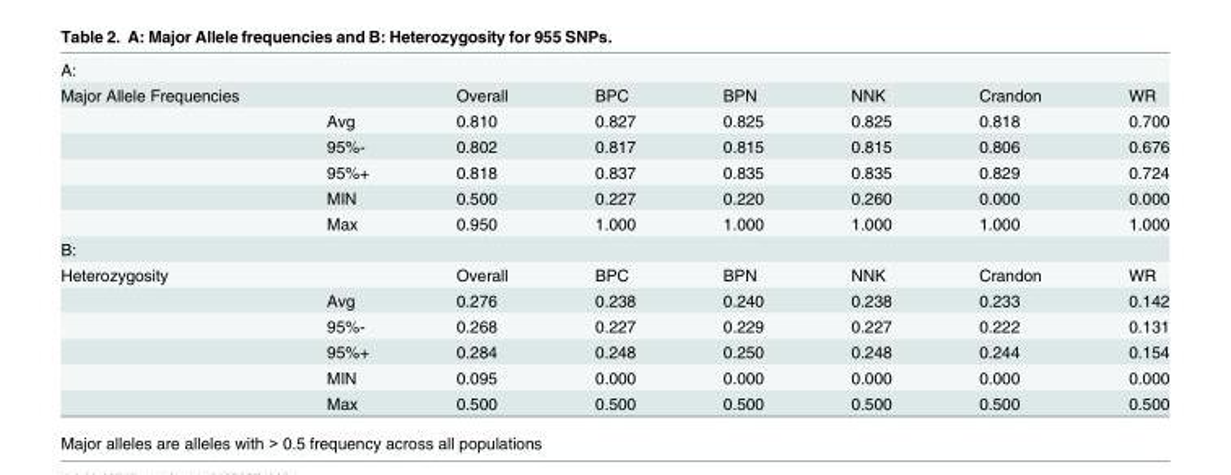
<table><tbody><tr><td colspan="8">A:</td></tr><tr><td rowspan="6">Major Allele Frequencies</td><td></td><td>Overall</td><td>BPC</td><td>BPN</td><td>NNK</td><td>Crandon</td><td>WR</td></tr><tr><td>Avg</td><td>0.810</td><td>0.827</td><td>0.825</td><td>0.825</td><td>0.818</td><td>0.700</td></tr><tr><td>95%-</td><td>0.802</td><td>0.817</td><td>0.815</td><td>0.815</td><td>0.806</td><td>0.676</td></tr><tr><td>95%+</td><td>0.818</td><td>0.837</td><td>0.835</td><td>0.835</td><td>0.829</td><td>0.724</td></tr><tr><td>MIN</td><td>0.500</td><td>0.227</td><td>0.220</td><td>0.260</td><td>0.000</td><td>0.000</td></tr><tr><td>Max</td><td>0.950</td><td>1.000</td><td>1.000</td><td>1.000</td><td>1.000</td><td>1.000</td></tr><tr><td colspan="8">B:</td></tr><tr><td rowspan="6">Heterozygosity</td><td></td><td>Overall</td><td>BPC</td><td>BPN</td><td>NNK</td><td>Crandon</td><td>WR</td></tr><tr><td>Avg</td><td>0.276</td><td>0.238</td><td>0.240</td><td>0.238</td><td>0.233</td><td>0.142</td></tr><tr><td>95%-</td><td>0.268</td><td>0.227</td><td>0.229</td><td>0.227</td><td>0.222</td><td>0.131</td></tr><tr><td>95%+</td><td>0.284</td><td>0.248</td><td>0.250</td><td>0.248</td><td>0.244</td><td>0.154</td></tr><tr><td>MIN</td><td>0.095</td><td>0.000</td><td>0.000</td><td>0.000</td><td>0.000</td><td>0.000</td></tr><tr><td>Max</td><td>0.500</td><td>0.500</td><td>0.500</td><td>0.500</td><td>0.500</td><td>0.500</td></tr></tbody></table>